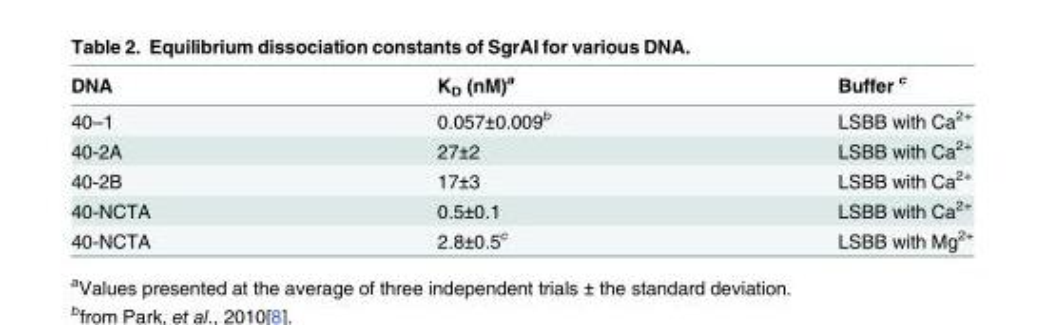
<table><thead><tr><td>DNA</td><td>K<sub>D</sub> (nM)<sup>a</sup></td><td>Buffer <sup>c</sup></td></tr></thead><tbody><tr><td>40–1</td><td>0.057±0.009<sup>b</sup></td><td>LSBB with Ca<sup>2+</sup></td></tr><tr><td>40-2A</td><td>27±2</td><td>LSBB with Ca<sup>2+</sup></td></tr><tr><td>40-2B</td><td>17±3</td><td>LSBB with Ca<sup>2+</sup></td></tr><tr><td>40-NCTA</td><td>0.5±0.1</td><td>LSBB with Ca<sup>2+</sup></td></tr><tr><td>40-NCTA</td><td>2.8±0.5<sup>c</sup></td><td>LSBB with Mg<sup>2+</sup></td></tr></tbody></table>